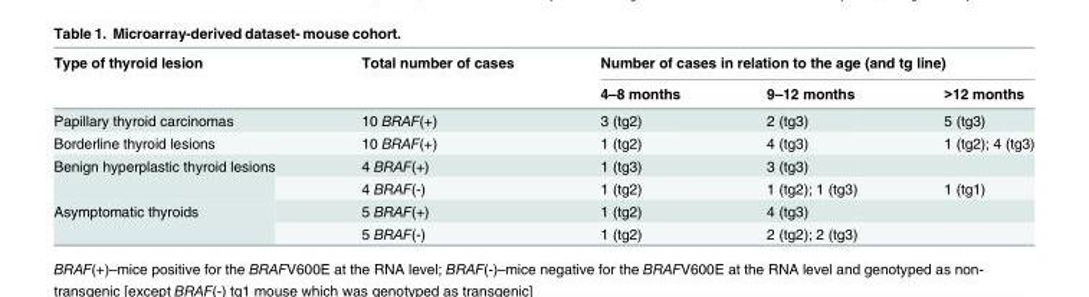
<table><thead><tr><td rowspan="2">Type of thyroid lesion</td><td rowspan="2">Total number of cases</td><td colspan="3">Number of cases in relation to the age (and tg line)</td></tr><tr><td>4–8 months</td><td>9–12 months</td><td>&gt;12 months</td></tr></thead><tbody><tr><td>Papillary thyroid carcinomas</td><td>10 BRAF(+)</td><td>3 (tg2)</td><td>2 (tg3)</td><td>5 (tg3)</td></tr><tr><td>Borderline thyroid lesions</td><td>10 BRAF(+)</td><td>1 (tg2)</td><td>4 (tg3)</td><td>1 (tg2); 4 (tg3)</td></tr><tr><td rowspan="2">Benign hyperplastic thyroid lesions</td><td>4 BRAF(+)</td><td>1 (tg3)</td><td>3 (tg3)</td><td></td></tr><tr><td>4 BRAF(-)</td><td>1 (tg2)</td><td>1 (tg2); 1 (tg3)</td><td>1 (tg1)</td></tr><tr><td rowspan="2">Asymptomatic thyroids</td><td>5 BRAF(+)</td><td>1 (tg2)</td><td>4 (tg3)</td><td></td></tr><tr><td>5 BRAF(-)</td><td>1 (tg2)</td><td>2 (tg2); 2 (tg3)</td><td></td></tr></tbody></table>